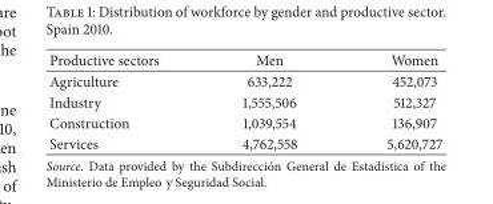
<table><thead><tr><td>Productive sectors</td><td>Men</td><td>Women</td></tr></thead><tbody><tr><td>Agriculture</td><td>633,222</td><td>452,073</td></tr><tr><td>Industry</td><td>1,555,506</td><td>512,327</td></tr><tr><td>Construction</td><td>1,039,554</td><td>136,907</td></tr><tr><td>Services</td><td>4,762,558</td><td>5,620,727</td></tr></tbody></table>